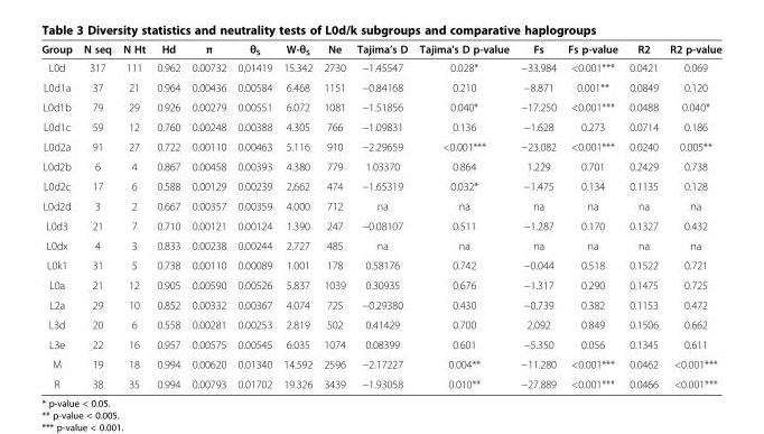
<table><thead><tr><td>Group</td><td>N seq</td><td>N Ht</td><td>Hd</td><td>π</td><td>θ<sub>S</sub></td><td>W-θ<sub>S</sub></td><td>Ne</td><td>Tajima’s D</td><td>Tajima&#x27;s D p-value</td><td>Fs</td><td>Fs p-value</td><td>R2</td><td>R2 p-value</td></tr></thead><tbody><tr><td>L0d</td><td>317</td><td>111</td><td>0.962</td><td>0.00732</td><td>0,01419</td><td>15.342</td><td>2730</td><td>−1.45547</td><td>0.028*</td><td>−33.984</td><td>&lt;0.001***</td><td>0.0421</td><td>0.069</td></tr><tr><td>L0d1a</td><td>37</td><td>21</td><td>0.964</td><td>0.00436</td><td>0.00584</td><td>6.468</td><td>1151</td><td>−0.84168</td><td>0.210</td><td>−8.871</td><td>0.001**</td><td>0.0849</td><td>0.120</td></tr><tr><td>L0d1b</td><td>79</td><td>29</td><td>0.926</td><td>0.00279</td><td>0.00551</td><td>6.072</td><td>1081</td><td>−1.51856</td><td>0.040*</td><td>−17.250</td><td>&lt;0.001***</td><td>0.0488</td><td>0.040*</td></tr><tr><td>L0d1c</td><td>59</td><td>12</td><td>0.760</td><td>0.00248</td><td>0.00388</td><td>4.305</td><td>766</td><td>−1.09831</td><td>0.136</td><td>−1.628</td><td>0.273</td><td>0.0714</td><td>0.186</td></tr><tr><td>L0d2a</td><td>91</td><td>27</td><td>0.722</td><td>0.00110</td><td>0.00463</td><td>5.116</td><td>910</td><td>−2.29659</td><td>&lt;0.001***</td><td>−23.082</td><td>&lt;0.001***</td><td>0.0240</td><td>0.005**</td></tr><tr><td>L0d2b</td><td>6</td><td>4</td><td>0.867</td><td>0.00458</td><td>0.00393</td><td>4.380</td><td>779</td><td>1.03370</td><td>0.864</td><td>1.229</td><td>0.701</td><td>0.2429</td><td>0.738</td></tr><tr><td>L0d2c</td><td>17</td><td>6</td><td>0.588</td><td>0.00129</td><td>0.00239</td><td>2.662</td><td>474</td><td>−1.65319</td><td>0.032*</td><td>−1.475</td><td>0.134</td><td>0.1135</td><td>0.128</td></tr><tr><td>L0d2d</td><td>3</td><td>2</td><td>0.667</td><td>0.00357</td><td>0.00359</td><td>4.000</td><td>712</td><td>na</td><td>na</td><td>na</td><td>na</td><td>na</td><td>na</td></tr><tr><td>L0d3</td><td>21</td><td>7</td><td>0.710</td><td>0.00121</td><td>0.00124</td><td>1.390</td><td>247</td><td>−0.08107</td><td>0.511</td><td>−1.287</td><td>0.170</td><td>0.1327</td><td>0.432</td></tr><tr><td>L0dx</td><td>4</td><td>3</td><td>0.833</td><td>0.00238</td><td>0.00244</td><td>2.727</td><td>485</td><td>na</td><td>na</td><td>na</td><td>na</td><td>na</td><td>na</td></tr><tr><td>L0k1</td><td>31</td><td>5</td><td>0.738</td><td>0.00110</td><td>0.00089</td><td>1.001</td><td>178</td><td>0.58176</td><td>0.742</td><td>−0.044</td><td>0.518</td><td>0.1522</td><td>0.721</td></tr><tr><td>L0a</td><td>21</td><td>12</td><td>0.905</td><td>0.00590</td><td>0.00526</td><td>5.837</td><td>1039</td><td>0.30935</td><td>0.676</td><td>−1.317</td><td>0.290</td><td>0.1475</td><td>0.725</td></tr><tr><td>L2a</td><td>29</td><td>10</td><td>0.852</td><td>0.00332</td><td>0.00367</td><td>4.074</td><td>725</td><td>−0.29380</td><td>0.430</td><td>−0.739</td><td>0.382</td><td>0.1153</td><td>0.472</td></tr><tr><td>L3d</td><td>20</td><td>6</td><td>0.558</td><td>0.00281</td><td>0.00253</td><td>2.819</td><td>502</td><td>0.41429</td><td>0.700</td><td>2.092</td><td>0.849</td><td>0.1506</td><td>0.662</td></tr><tr><td>L3e</td><td>22</td><td>16</td><td>0.957</td><td>0.00575</td><td>0.00545</td><td>6.035</td><td>1074</td><td>0.08399</td><td>0.601</td><td>−5.350</td><td>0.056</td><td>0.1345</td><td>0.611</td></tr><tr><td>M</td><td>19</td><td>18</td><td>0.994</td><td>0.00620</td><td>0.01340</td><td>14.592</td><td>2596</td><td>−2.17227</td><td>0.004**</td><td>−11.280</td><td>&lt;0.001***</td><td>0.0462</td><td>&lt;0.001***</td></tr><tr><td>R</td><td>38</td><td>35</td><td>0.994</td><td>0.00793</td><td>0.01702</td><td>19.326</td><td>3439</td><td>−1.93058</td><td>0.010**</td><td>−27.889</td><td>&lt;0.001***</td><td>0.0466</td><td>&lt;0.001***</td></tr></tbody></table>